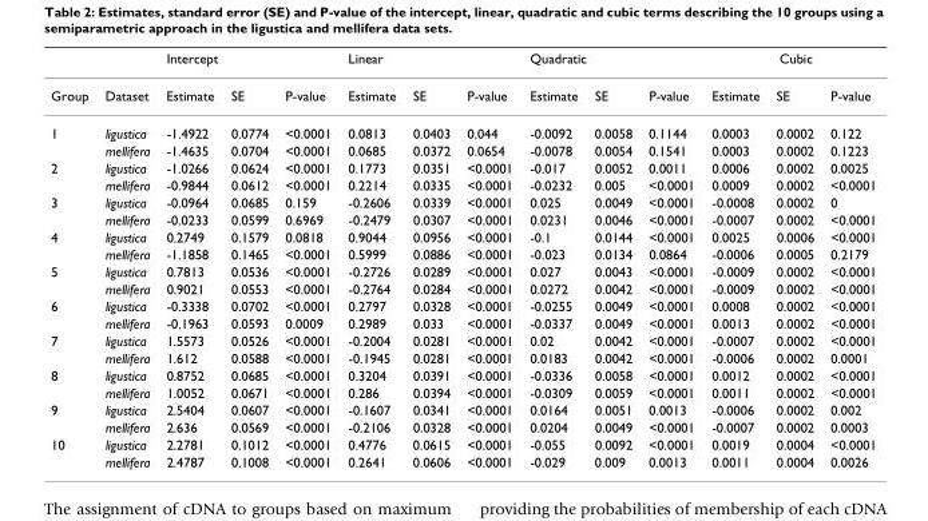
<table><thead><tr><td rowspan="2">Group</td><td rowspan="2">Dataset</td><td colspan="3">Intercept</td><td colspan="3">Linear</td><td colspan="3">Quadratic</td><td colspan="3">Cubic</td></tr><tr><td>Estimate</td><td>SE</td><td>P-value</td><td>Estimate</td><td>SE</td><td>P-value</td><td>Estimate</td><td>SE</td><td>P-value</td><td>Estimate</td><td>SE</td><td>P-value</td></tr></thead><tbody><tr><td rowspan="2">1</td><td>ligustica</td><td>-1.4922</td><td>0.0774</td><td>&lt;0.0001</td><td>0.0813</td><td>0.0403</td><td>0.044</td><td>-0.0092</td><td>0.0058</td><td>0.1144</td><td>0.0003</td><td>0.0002</td><td>0.122</td></tr><tr><td>mellifera</td><td>-1.4635</td><td>0.0704</td><td>&lt;0.0001</td><td>0.0685</td><td>0.0372</td><td>0.0654</td><td>-0.0078</td><td>0.0054</td><td>0.1541</td><td>0.0003</td><td>0.0002</td><td>0.1223</td></tr><tr><td rowspan="2">2</td><td>ligustica</td><td>-1.0266</td><td>0.0624</td><td>&lt;0.0001</td><td>0.1773</td><td>0.0351</td><td>&lt;0.0001</td><td>-0.017</td><td>0.0052</td><td>0.0011</td><td>0.0006</td><td>0.0002</td><td>0.0025</td></tr><tr><td>mellifera</td><td>-0.9844</td><td>0.0612</td><td>&lt;0.0001</td><td>0.2214</td><td>0.0335</td><td>&lt;0.0001</td><td>-0.0232</td><td>0.005</td><td>&lt;0.0001</td><td>0.0009</td><td>0.0002</td><td>&lt;0.0001</td></tr><tr><td rowspan="2">3</td><td>ligustica</td><td>-0.0964</td><td>0.0685</td><td>0.159</td><td>-0.2606</td><td>0.0339</td><td>&lt;0.0001</td><td>0.025</td><td>0.0049</td><td>&lt;0.0001</td><td>-0.0008</td><td>0.0002</td><td>0</td></tr><tr><td>mellifera</td><td>-0.0233</td><td>0.0599</td><td>0.6969</td><td>-0.2479</td><td>0.0307</td><td>&lt;0.0001</td><td>0.0231</td><td>0.0046</td><td>&lt;0.0001</td><td>-0.0007</td><td>0.0002</td><td>&lt;0.0001</td></tr><tr><td rowspan="2">4</td><td>ligustica</td><td>0.2749</td><td>0.1579</td><td>0.0818</td><td>0.9044</td><td>0.0956</td><td>&lt;0.0001</td><td>-0.1</td><td>0.0144</td><td>&lt;0.0001</td><td>0.0025</td><td>0.0006</td><td>&lt;0.0001</td></tr><tr><td>mellifera</td><td>-1.1858</td><td>0.1465</td><td>&lt;0.0001</td><td>0.5999</td><td>0.0886</td><td>&lt;0.0001</td><td>-0.023</td><td>0.0134</td><td>0.0864</td><td>-0.0006</td><td>0.0005</td><td>0.2179</td></tr><tr><td rowspan="2">5</td><td>ligustica</td><td>0.7813</td><td>0.0536</td><td>&lt;0.0001</td><td>-0.2726</td><td>0.0289</td><td>&lt;0.0001</td><td>0.027</td><td>0.0043</td><td>&lt;0.0001</td><td>-0.0009</td><td>0.0002</td><td>&lt;0.0001</td></tr><tr><td>mellifera</td><td>0.9021</td><td>0.0553</td><td>&lt;0.0001</td><td>-0.2764</td><td>0.0284</td><td>&lt;0.0001</td><td>0.0272</td><td>0.0042</td><td>&lt;0.0001</td><td>-0.0009</td><td>0.0002</td><td>&lt;0.0001</td></tr><tr><td rowspan="2">6</td><td>ligustica</td><td>-0.3338</td><td>0.0702</td><td>&lt;0.0001</td><td>0.2797</td><td>0.0328</td><td>&lt;0.0001</td><td>-0.0255</td><td>0.0049</td><td>&lt;0.0001</td><td>0.0008</td><td>0.0002</td><td>&lt;0.0001</td></tr><tr><td>mellifera</td><td>-0.1963</td><td>0.0593</td><td>0.0009</td><td>0.2989</td><td>0.033</td><td>&lt;0.0001</td><td>-0.0337</td><td>0.0049</td><td>&lt;0.0001</td><td>0.0013</td><td>0.0002</td><td>&lt;0.0001</td></tr><tr><td rowspan="2">7</td><td>ligustica</td><td>1.5573</td><td>0.0526</td><td>&lt;0.0001</td><td>-0.2004</td><td>0.0281</td><td>&lt;0.0001</td><td>0.02</td><td>0.0042</td><td>&lt;0.0001</td><td>-0.0007</td><td>0.0002</td><td>&lt;0.0001</td></tr><tr><td>mellifera</td><td>1.612</td><td>0.0588</td><td>&lt;0.0001</td><td>-0.1945</td><td>0.0281</td><td>&lt;0.0001</td><td>0.0183</td><td>0.0042</td><td>&lt;0.0001</td><td>-0.0006</td><td>0.0002</td><td>0.0001</td></tr><tr><td rowspan="2">8</td><td>ligustica</td><td>0.8752</td><td>0.0685</td><td>&lt;0.0001</td><td>0.3204</td><td>0.0391</td><td>&lt;0.0001</td><td>-0.0336</td><td>0.0058</td><td>&lt;0.0001</td><td>0.0012</td><td>0.0002</td><td>&lt;0.0001</td></tr><tr><td>mellifera</td><td>1.0052</td><td>0.0671</td><td>&lt;0.0001</td><td>0.286</td><td>0.0394</td><td>&lt;0.0001</td><td>-0.0309</td><td>0.0059</td><td>&lt;0.0001</td><td>0.0011</td><td>0.0002</td><td>&lt;0.0001</td></tr><tr><td rowspan="2">9</td><td>ligustica</td><td>2.5404</td><td>0.0607</td><td>&lt;0.0001</td><td>-0.1607</td><td>0.0341</td><td>&lt;0.0001</td><td>0.0164</td><td>0.0051</td><td>0.0013</td><td>-0.0006</td><td>0.0002</td><td>0.002</td></tr><tr><td>mellifera</td><td>2.636</td><td>0.0569</td><td>&lt;0.0001</td><td>-0.2106</td><td>0.0328</td><td>&lt;0.0001</td><td>0.0204</td><td>0.0049</td><td>&lt;0.0001</td><td>-0.0007</td><td>0.0002</td><td>0.0003</td></tr><tr><td rowspan="2">10</td><td>ligustica</td><td>2.2781</td><td>0.1012</td><td>&lt;0.0001</td><td>0.4776</td><td>0.0615</td><td>&lt;0.0001</td><td>-0.055</td><td>0.0092</td><td>&lt;0.0001</td><td>0.0019</td><td>0.0004</td><td>&lt;0.0001</td></tr><tr><td>mellifera</td><td>2.4787</td><td>0.1008</td><td>&lt;0.0001</td><td>0.2641</td><td>0.0606</td><td>&lt;0.0001</td><td>-0.029</td><td>0.009</td><td>0.0013</td><td>0.0011</td><td>0.0004</td><td>0.0026</td></tr></tbody></table>